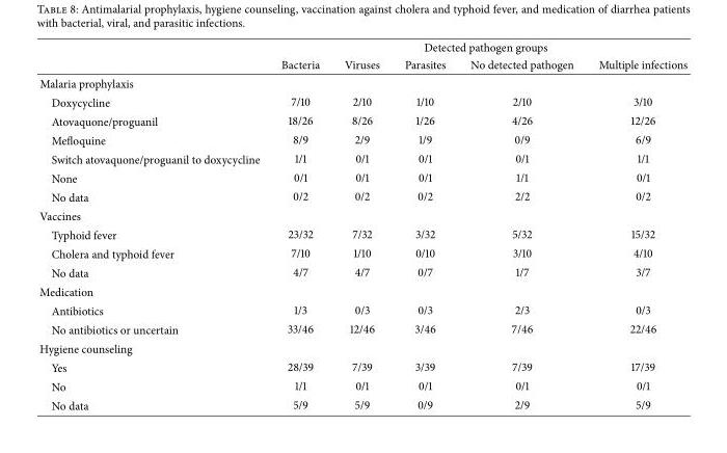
<table><thead><tr><td rowspan="2"></td><td colspan="5">Detected pathogen groups</td></tr><tr><td>Bacteria</td><td>Viruses</td><td>Parasites</td><td>No detected pathogen</td><td>Multiple infections</td></tr></thead><tbody><tr><td colspan="6">Malaria prophylaxis</td></tr><tr><td>Doxycycline</td><td>7/10</td><td>2/10</td><td>1/10</td><td>2/10</td><td>3/10</td></tr><tr><td>Atovaquone/proguanil</td><td>18/26</td><td>8/26</td><td>1/26</td><td>4/26</td><td>12/26</td></tr><tr><td>Mefloquine</td><td>8/9</td><td>2/9</td><td>1/9</td><td>0/9</td><td>6/9</td></tr><tr><td>Switch atovaquone/proguanil to doxycycline</td><td>1/1</td><td>0/1</td><td>0/1</td><td>0/1</td><td>1/1</td></tr><tr><td>None</td><td>0/1</td><td>0/1</td><td>0/1</td><td>1/1</td><td>0/1</td></tr><tr><td>No data</td><td>0/2</td><td>0/2</td><td>0/2</td><td>2/2</td><td>0/2</td></tr><tr><td colspan="6">Vaccines</td></tr><tr><td>Typhoid fever</td><td>23/32</td><td>7/32</td><td>3/32</td><td>5/32</td><td>15/32</td></tr><tr><td>Cholera and typhoid fever</td><td>7/10</td><td>1/10</td><td>0/10</td><td>3/10</td><td>4/10</td></tr><tr><td>No data</td><td>4/7</td><td>4/7</td><td>0/7</td><td>1/7</td><td>3/7</td></tr><tr><td colspan="6">Medication</td></tr><tr><td>Antibiotics</td><td>1/3</td><td>0/3</td><td>0/3</td><td>2/3</td><td>0/3</td></tr><tr><td>No antibiotics or uncertain</td><td>33/46</td><td>12/46</td><td>3/46</td><td>7/46</td><td>22/46</td></tr><tr><td colspan="6">Hygiene counseling</td></tr><tr><td>Yes</td><td>28/39</td><td>7/39</td><td>3/39</td><td>7/39</td><td>17/39</td></tr><tr><td>No</td><td>1/1</td><td>0/1</td><td>0/1</td><td>0/1</td><td>0/1</td></tr><tr><td>No data</td><td>5/9</td><td>5/9</td><td>0/9</td><td>2/9</td><td>5/9</td></tr></tbody></table>